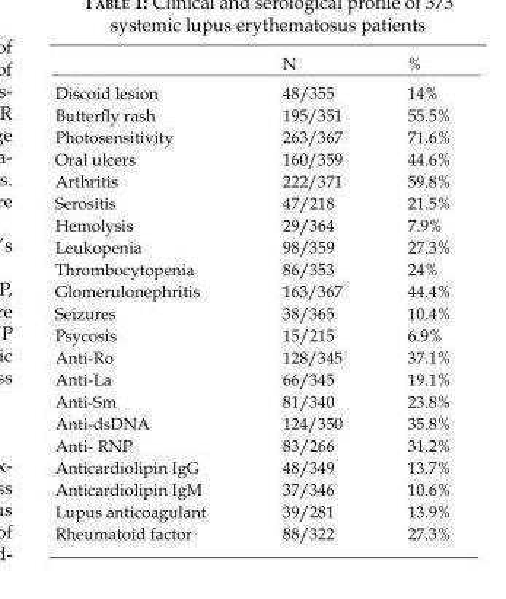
<table><thead><tr><td></td><td>N</td><td>%</td></tr></thead><tbody><tr><td>Discoid lesion</td><td>48/355</td><td>14%</td></tr><tr><td>Butterfly rash</td><td>195/351</td><td>55.5%</td></tr><tr><td>Photosensitivity</td><td>263/367</td><td>71.6%</td></tr><tr><td>Oral ulcers</td><td>160/359</td><td>44.6%</td></tr><tr><td>Arthritis</td><td>222/371</td><td>59.8%</td></tr><tr><td>Serositis</td><td>47/218</td><td>21.5%</td></tr><tr><td>Hemolysis</td><td>29/364</td><td>7.9%</td></tr><tr><td>Leukopenia</td><td>98/359</td><td>27.3%</td></tr><tr><td>Thrombocytopenia</td><td>86/353</td><td>24%</td></tr><tr><td>Glomerulonephritis</td><td>163/367</td><td>44.4%</td></tr><tr><td>Seizures</td><td>38/365</td><td>10.4%</td></tr><tr><td>Psycosis</td><td>15/215</td><td>6.9%</td></tr><tr><td>Anti-Ro</td><td>128/345</td><td>37.1%</td></tr><tr><td>Anti-La</td><td>66/345</td><td>19.1%</td></tr><tr><td>Anti-Sm</td><td>81/340</td><td>23.8%</td></tr><tr><td>Anti-dsDNA</td><td>124/350</td><td>35.8%</td></tr><tr><td>Anti- RNP</td><td>83/266</td><td>31.2%</td></tr><tr><td>Anticardiolipin IgG</td><td>48/349</td><td>13.7%</td></tr><tr><td>Anticardiolipin IgM</td><td>37/346</td><td>10.6%</td></tr><tr><td>Lupus anticoagulant</td><td>39/281</td><td>13.9%</td></tr><tr><td>Rheumatoid factor</td><td>88/322</td><td>27.3%</td></tr></tbody></table>